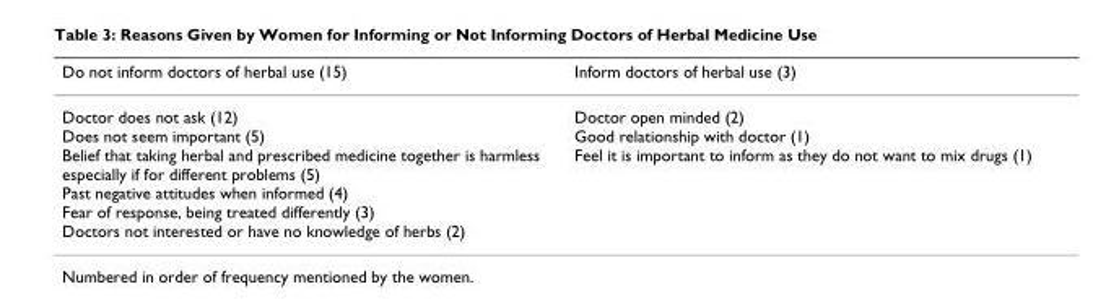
<table><thead><tr><td>Do not inform doctors of herbal use (15)</td><td>Inform doctors of herbal use (3)</td></tr></thead><tbody><tr><td>Doctor does not ask (12) Does not seem important (5) Belief that taking herbal and prescribed medicine together is harmless especially if for different problems (5) Past negative attitudes when informed (4) Fear of response, being treated differently (3) Doctors not interested or have no knowledge of herbs (2)</td><td>Doctor open minded (2) Good relationship with doctor (1) Feel it is important to inform as they do not want to mix drugs (1)</td></tr></tbody></table>